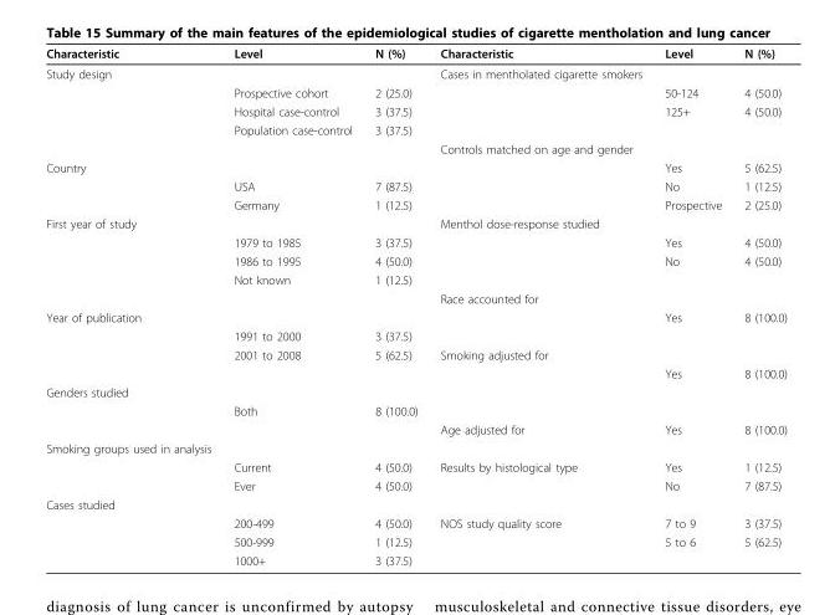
<table><thead><tr><td>Characteristic</td><td>Level</td><td>N (%)</td><td>Characteristic</td><td>Level</td><td>N (%)</td></tr></thead><tbody><tr><td rowspan="5">Study design</td><td></td><td></td><td>Cases in mentholated cigarette smokers</td><td></td><td></td></tr><tr><td>Prospective cohort</td><td>2 (25.0)</td><td></td><td>50-124</td><td>4 (50.0)</td></tr><tr><td>Hospital case-control</td><td>3 (37.5)</td><td></td><td>125+</td><td>4 (50.0)</td></tr><tr><td>Population case-control</td><td>3 (37.5)</td><td></td><td></td><td></td></tr><tr><td></td><td></td><td>Controls matched on age and gender</td><td></td><td></td></tr><tr><td rowspan="3">Country</td><td></td><td></td><td></td><td>Yes</td><td>5 (62.5)</td></tr><tr><td>USA</td><td>7 (87.5)</td><td></td><td>No</td><td>1 (12.5)</td></tr><tr><td>Germany</td><td>1 (12.5)</td><td></td><td>Prospective</td><td>2 (25.0)</td></tr><tr><td rowspan="5">First year of study</td><td></td><td></td><td>Menthol dose-response studied</td><td></td><td></td></tr><tr><td>1979 to 1985</td><td>3 (37.5)</td><td></td><td>Yes</td><td>4 (50.0)</td></tr><tr><td>1986 to 1995</td><td>4 (50.0)</td><td></td><td>No</td><td>4 (50.0)</td></tr><tr><td>Not known</td><td>1 (12.5)</td><td></td><td></td><td></td></tr><tr><td></td><td></td><td>Race accounted for</td><td></td><td></td></tr><tr><td rowspan="4">Year of publication</td><td></td><td></td><td></td><td>Yes</td><td>8 (100.0)</td></tr><tr><td>1991 to 2000</td><td>3 (37.5)</td><td></td><td></td><td></td></tr><tr><td>2001 to 2008</td><td>5 (62.5)</td><td>Smoking adjusted for</td><td></td><td></td></tr><tr><td></td><td></td><td></td><td>Yes</td><td>8 (100.0)</td></tr><tr><td colspan="6">Genders studied</td></tr><tr><td></td><td>Both</td><td>8 (100.0)</td><td></td><td></td><td></td></tr><tr><td></td><td></td><td></td><td>Age adjusted for</td><td>Yes</td><td>8 (100.0)</td></tr><tr><td colspan="6">Smoking groups used in analysis</td></tr><tr><td></td><td>Current</td><td>4 (50.0)</td><td>Results by histological type</td><td>Yes</td><td>1 (12.5)</td></tr><tr><td></td><td>Ever</td><td>4 (50.0)</td><td></td><td>No</td><td>7 (87.5)</td></tr><tr><td colspan="6">Cases studied</td></tr><tr><td></td><td>200-499</td><td>4 (50.0)</td><td>NOS study quality score</td><td>7 to 9</td><td>3 (37.5)</td></tr><tr><td></td><td>500-999</td><td>1 (12.5)</td><td></td><td>5 to 6</td><td>5 (62.5)</td></tr><tr><td></td><td>1000+</td><td>3 (37.5)</td><td></td><td></td><td></td></tr></tbody></table>